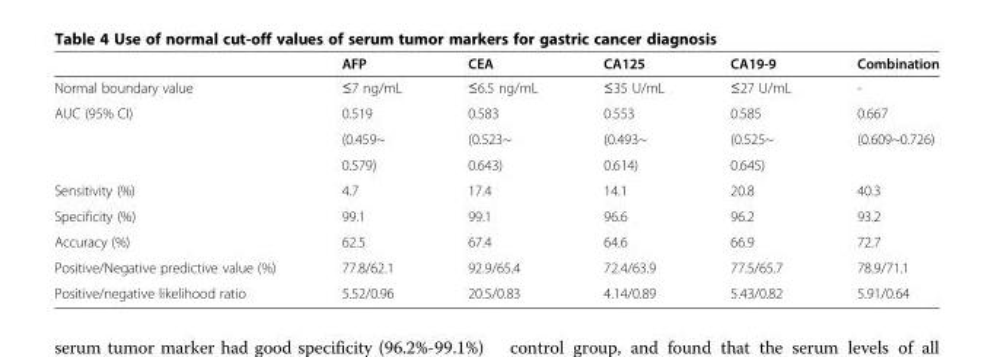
<table><thead><tr><td></td><td>AFP</td><td>CEA</td><td>CA125</td><td>CA19-9</td><td>Combination</td></tr></thead><tbody><tr><td>Normal boundary value</td><td>≤7 ng/mL</td><td>≤6.5 ng/mL</td><td>≤35 U/mL</td><td>≤27 U/mL</td><td>-</td></tr><tr><td rowspan="3">AUC (95% CI)</td><td>0.519</td><td>0.583</td><td>0.553</td><td>0.585</td><td>0.667</td></tr><tr><td>(0.459~</td><td>(0.523~</td><td>(0.493~</td><td>(0.525~</td><td>(0.609~0.726)</td></tr><tr><td>0.579)</td><td>0.643)</td><td>0.614)</td><td>0.645)</td><td></td></tr><tr><td>Sensitivity (%)</td><td>4.7</td><td>17.4</td><td>14.1</td><td>20.8</td><td>40.3</td></tr><tr><td>Specificity (%)</td><td>99.1</td><td>99.1</td><td>96.6</td><td>96.2</td><td>93.2</td></tr><tr><td>Accuracy (%)</td><td>62.5</td><td>67.4</td><td>64.6</td><td>66.9</td><td>72.7</td></tr><tr><td>Positive/Negative predictive value (%)</td><td>77.8/62.1</td><td>92.9/65.4</td><td>72.4/63.9</td><td>77.5/65.7</td><td>78.9/71.1</td></tr><tr><td>Positive/negative likelihood ratio</td><td>5.52/0.96</td><td>20.5/0.83</td><td>4.14/0.89</td><td>5.43/0.82</td><td>5.91/0.64</td></tr></tbody></table>